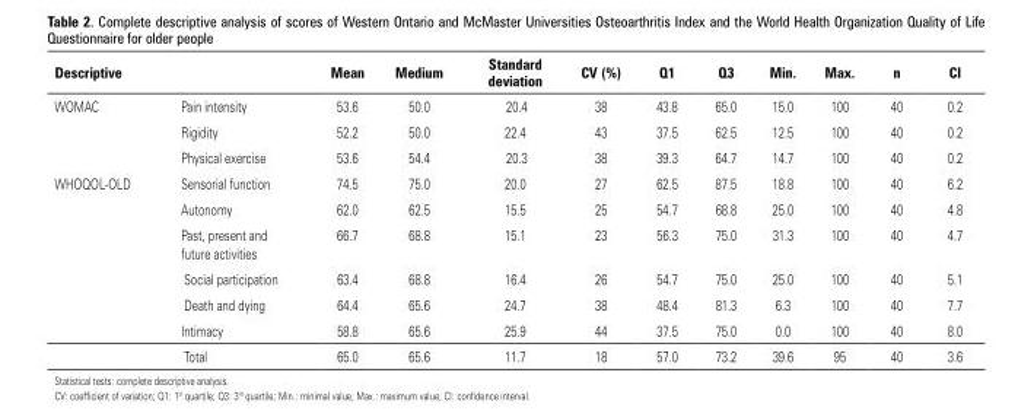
<table><thead><tr><td>Descriptive</td><td></td><td>Mean</td><td>Medium</td><td>Standard deviation</td><td>CV (%)</td><td>Q1</td><td>Q3</td><td>Min.</td><td>Max.</td><td>n</td><td>CI</td></tr></thead><tbody><tr><td rowspan="3">WOMAC</td><td>Pain intensity</td><td>53.6</td><td>50.0</td><td>20.4</td><td>38</td><td>43.8</td><td>65.0</td><td>15.0</td><td>100</td><td>40</td><td>0.2</td></tr><tr><td>Rigidity</td><td>52.2</td><td>50.0</td><td>22.4</td><td>43</td><td>37.5</td><td>62.5</td><td>12.5</td><td>100</td><td>40</td><td>0.2</td></tr><tr><td>Physical exercise</td><td>53.6</td><td>54.4</td><td>20.3</td><td>38</td><td>39.3</td><td>64.7</td><td>14.7</td><td>100</td><td>40</td><td>0.2</td></tr><tr><td rowspan="7">WHOQOL-OLD</td><td>Sensorial function</td><td>74.5</td><td>75.0</td><td>20.0</td><td>27</td><td>62.5</td><td>87.5</td><td>18.8</td><td>100</td><td>40</td><td>6.2</td></tr><tr><td>Autonomy</td><td>62.0</td><td>62.5</td><td>15.5</td><td>25</td><td>54.7</td><td>68.8</td><td>25.0</td><td>100</td><td>40</td><td>4.8</td></tr><tr><td>Past, present and future activities</td><td>66.7</td><td>68.8</td><td>15.1</td><td>23</td><td>56.3</td><td>75.0</td><td>31.3</td><td>100</td><td>40</td><td>4.7</td></tr><tr><td>Social participation</td><td>63.4</td><td>68.8</td><td>16.4</td><td>26</td><td>54.7</td><td>75.0</td><td>25.0</td><td>100</td><td>40</td><td>5.1</td></tr><tr><td>Death and dying</td><td>64.4</td><td>65.6</td><td>24.7</td><td>38</td><td>48.4</td><td>81.3</td><td>6.3</td><td>100</td><td>40</td><td>7.7</td></tr><tr><td>Intimacy</td><td>58.8</td><td>65.6</td><td>25.9</td><td>44</td><td>37.5</td><td>75.0</td><td>0.0</td><td>100</td><td>40</td><td>8.0</td></tr><tr><td>Total</td><td>65.0</td><td>65.6</td><td>11.7</td><td>18</td><td>57.0</td><td>73.2</td><td>39.6</td><td>95</td><td>40</td><td>3.6</td></tr></tbody></table>